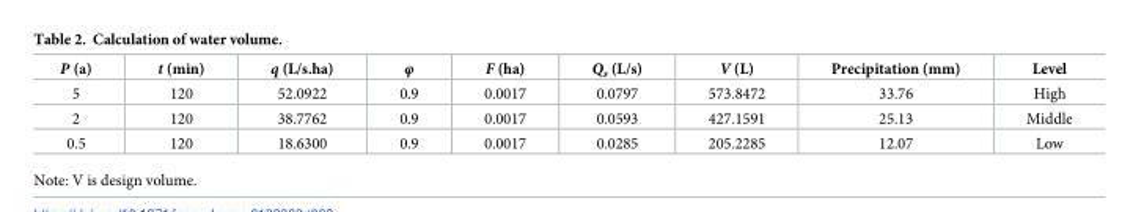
<table><thead><tr><td>P (a)</td><td>t (min)</td><td>q (L/s.ha)</td><td>φ</td><td>F (ha)</td><td>Q<sub>s</sub> (L/s)</td><td>V (L)</td><td>Precipitation (mm)</td><td>Level</td></tr></thead><tbody><tr><td>5</td><td>120</td><td>52.0922</td><td>0.9</td><td>0.0017</td><td>0.0797</td><td>573.8472</td><td>33.76</td><td>High</td></tr><tr><td>2</td><td>120</td><td>38.7762</td><td>0.9</td><td>0.0017</td><td>0.0593</td><td>427.1591</td><td>25.13</td><td>Middle</td></tr><tr><td>0.5</td><td>120</td><td>18.6300</td><td>0.9</td><td>0.0017</td><td>0.0285</td><td>205.2285</td><td>12.07</td><td>Low</td></tr></tbody></table>